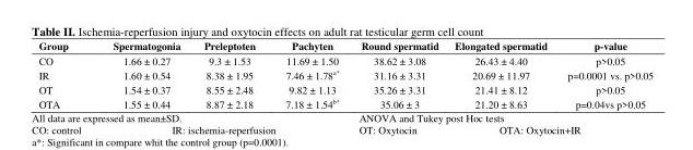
<table><thead><tr><td>Group</td><td>Spermatogonia</td><td>Preleptoten</td><td>Pachyten</td><td>Round spermatid</td><td>Elongated spermatid</td><td>p-value</td></tr></thead><tbody><tr><td>CO</td><td>1.66 ± 0.27</td><td>9.3 ± 1.53</td><td>11.69 ± 1.50</td><td>38.62 ± 3.08</td><td>26.43 ± 4.40</td><td>p&gt;0.05</td></tr><tr><td>IR</td><td>1.60 ± 0.54</td><td>8.38 ± 1.95</td><td>7.46 ± 1.78a*</td><td>31.16 ± 3.31</td><td>20.69 ± 11.97</td><td>p=0.0001 vs. p&gt;0.05</td></tr><tr><td>OT</td><td>1.54 ± 0.37</td><td>8.55 ± 2.48</td><td>9.82 ± 1.13</td><td>35.26 ± 3.31</td><td>21.41 ± 8.12</td><td>p&gt;0.05</td></tr><tr><td>OTA</td><td>1.55 ± 0.44</td><td>8.87 ± 2.18</td><td>7.18 ± 1.54b*</td><td>35.06 ± 3</td><td>21.20 ± 8.63</td><td>p=0.04vs p&gt;0.05</td></tr></tbody></table>